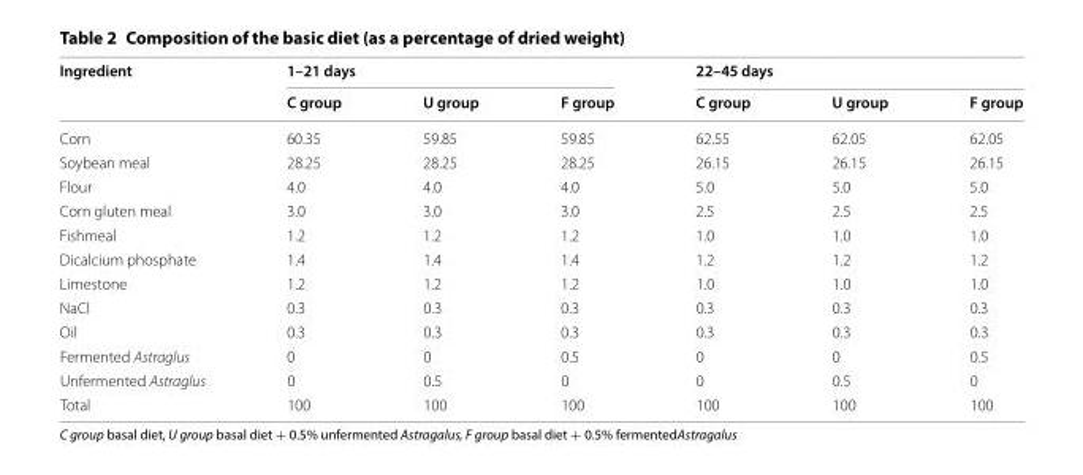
<table><thead><tr><td rowspan="2">Ingredient</td><td colspan="3">1–21 days</td><td colspan="3">22–45 days</td></tr><tr><td>C group</td><td>U group</td><td>F group</td><td>C group</td><td>U group</td><td>F group</td></tr></thead><tbody><tr><td>Corn</td><td>60.35</td><td>59.85</td><td>59.85</td><td>62.55</td><td>62.05</td><td>62.05</td></tr><tr><td>Soybean meal</td><td>28.25</td><td>28.25</td><td>28.25</td><td>26.15</td><td>26.15</td><td>26.15</td></tr><tr><td>Flour</td><td>4.0</td><td>4.0</td><td>4.0</td><td>5.0</td><td>5.0</td><td>5.0</td></tr><tr><td>Corn gluten meal</td><td>3.0</td><td>3.0</td><td>3.0</td><td>2.5</td><td>2.5</td><td>2.5</td></tr><tr><td>Fishmeal</td><td>1.2</td><td>1.2</td><td>1.2</td><td>1.0</td><td>1.0</td><td>1.0</td></tr><tr><td>Dicalcium phosphate</td><td>1.4</td><td>1.4</td><td>1.4</td><td>1.2</td><td>1.2</td><td>1.2</td></tr><tr><td>Limestone</td><td>1.2</td><td>1.2</td><td>1.2</td><td>1.0</td><td>1.0</td><td>1.0</td></tr><tr><td>NaCl</td><td>0.3</td><td>0.3</td><td>0.3</td><td>0.3</td><td>0.3</td><td>0.3</td></tr><tr><td>Oil</td><td>0.3</td><td>0.3</td><td>0.3</td><td>0.3</td><td>0.3</td><td>0.3</td></tr><tr><td>Fermented Astraglus</td><td>0</td><td>0</td><td>0.5</td><td>0</td><td>0</td><td>0.5</td></tr><tr><td>Unfermented Astraglus</td><td>0</td><td>0.5</td><td>0</td><td>0</td><td>0.5</td><td>0</td></tr><tr><td>Total</td><td>100</td><td>100</td><td>100</td><td>100</td><td>100</td><td>100</td></tr></tbody></table>